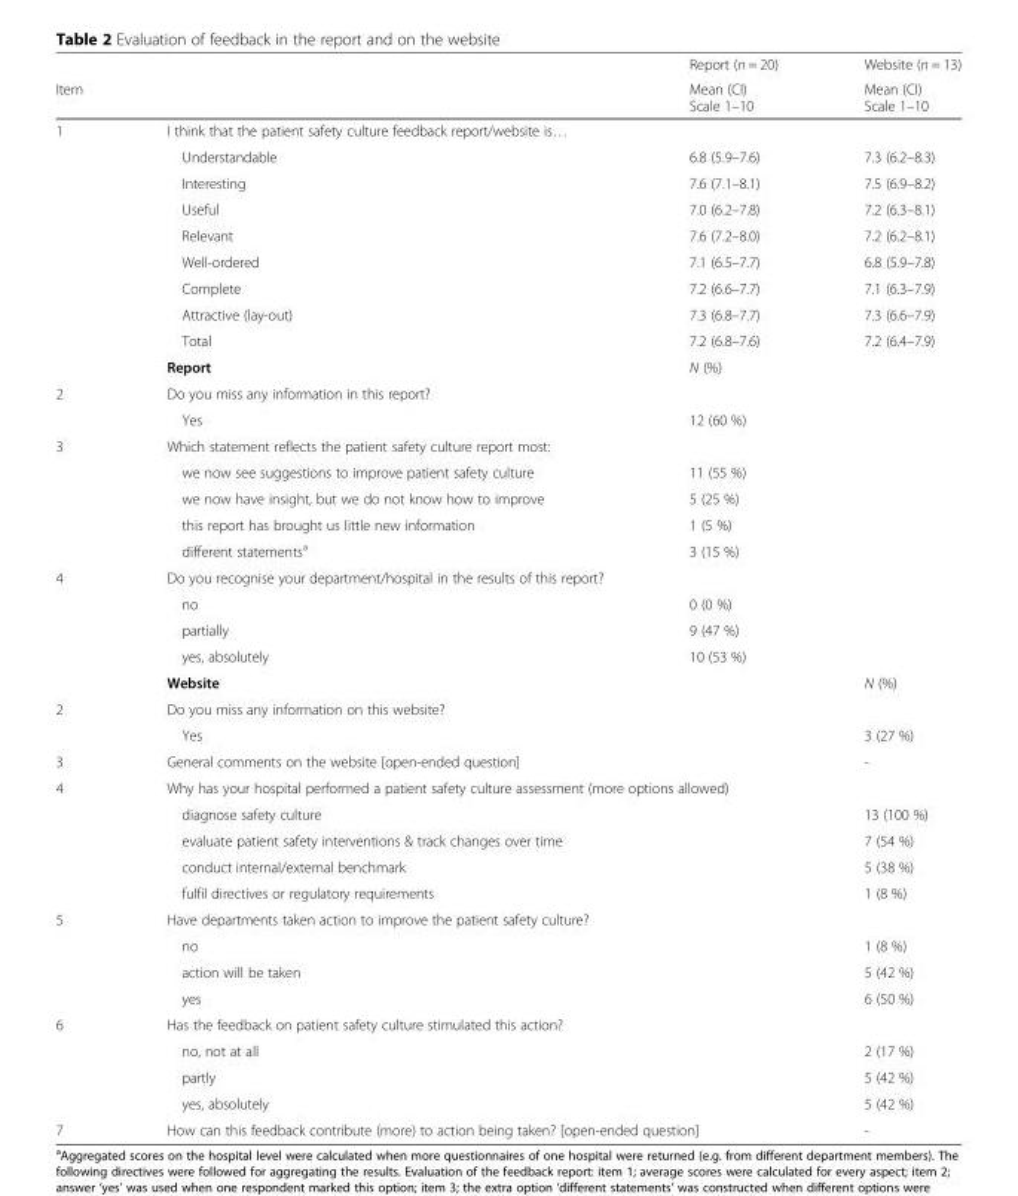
<table><thead><tr><td rowspan="2">Item</td><td rowspan="2"></td><td rowspan="2">Report (n = 20) Mean (CI) Scale 1–10</td><td rowspan="2">Website (n = 13) Mean (CI) Scale 1–10</td></tr><tr></tr></thead><tbody><tr><td rowspan="10">1</td><td>I think that the patient safety culture feedback report/website is…</td><td></td><td></td></tr><tr><td>Understandable</td><td>6.8 (5.9–7.6)</td><td>7.3 (6.2–8.3)</td></tr><tr><td>Interesting</td><td>7.6 (7.1–8.1)</td><td>7.5 (6.9–8.2)</td></tr><tr><td>Useful</td><td>7.0 (6.2–7.8)</td><td>7.2 (6.3–8.1)</td></tr><tr><td>Relevant</td><td>7.6 (7.2–8.0)</td><td>7.2 (6.2–8.1)</td></tr><tr><td>Well-ordered</td><td>7.1 (6.5–7.7)</td><td>6.8 (5.9–7.8)</td></tr><tr><td>Complete</td><td>7.2 (6.6–7.7)</td><td>7.1 (6.3–7.9)</td></tr><tr><td>Attractive (lay-out)</td><td>7.3 (6.8–7.7)</td><td>7.3 (6.6–7.9)</td></tr><tr><td>Total</td><td>7.2 (6.8–7.6)</td><td>7.2 (6.4–7.9)</td></tr><tr><td>Report</td><td>N (%)</td><td></td></tr><tr><td rowspan="2">2</td><td>Do you miss any information in this report?</td><td></td><td></td></tr><tr><td>Yes</td><td>12 (60 %)</td><td></td></tr><tr><td rowspan="5">3</td><td>Which statement reflects the patient safety culture report most:</td><td></td><td></td></tr><tr><td>we now see suggestions to improve patient safety culture</td><td>11 (55 %)</td><td></td></tr><tr><td>we now have insight, but we do not know how to improve</td><td>5 (25 %)</td><td></td></tr><tr><td>this report has brought us little new information</td><td>1 (5 %)</td><td></td></tr><tr><td>different statements<sup>a</sup></td><td>3 (15 %)</td><td></td></tr><tr><td rowspan="5">4</td><td>Do you recognise your department/hospital in the results of this report?</td><td></td><td></td></tr><tr><td>no</td><td>0 (0 %)</td><td></td></tr><tr><td>partially</td><td>9 (47 %)</td><td></td></tr><tr><td>yes, absolutely</td><td>10 (53 %)</td><td></td></tr><tr><td colspan="2">Website</td><td>N (%)</td></tr><tr><td rowspan="2">2</td><td colspan="2">Do you miss any information on this website?</td><td></td></tr><tr><td colspan="2">Yes</td><td>3 (27 %)</td></tr><tr><td>3</td><td colspan="2">General comments on the website [open-ended question]</td><td>-</td></tr><tr><td rowspan="5">4</td><td colspan="2">Why has your hospital performed a patient safety culture assessment (more options allowed)</td><td></td></tr><tr><td colspan="2">diagnose safety culture</td><td>13 (100 %)</td></tr><tr><td colspan="2">evaluate patient safety interventions &amp; track changes over time</td><td>7 (54 %)</td></tr><tr><td colspan="2">conduct internal/external benchmark</td><td>5 (38 %)</td></tr><tr><td colspan="2">fulfil directives or regulatory requirements</td><td>1 (8 %)</td></tr><tr><td rowspan="4">5</td><td colspan="2">Have departments taken action to improve the patient safety culture?</td><td></td></tr><tr><td colspan="2">no</td><td>1 (8 %)</td></tr><tr><td colspan="2">action will be taken</td><td>5 (42 %)</td></tr><tr><td colspan="2">yes</td><td>6 (50 %)</td></tr><tr><td rowspan="4">6</td><td colspan="2">Has the feedback on patient safety culture stimulated this action?</td><td></td></tr><tr><td colspan="2">no, not at all</td><td>2 (17 %)</td></tr><tr><td colspan="2">partly</td><td>5 (42 %)</td></tr><tr><td colspan="2">yes, absolutely</td><td>5 (42 %)</td></tr><tr><td>7</td><td colspan="2">How can this feedback contribute (more) to action being taken? [open-ended question]</td><td>-</td></tr></tbody></table>